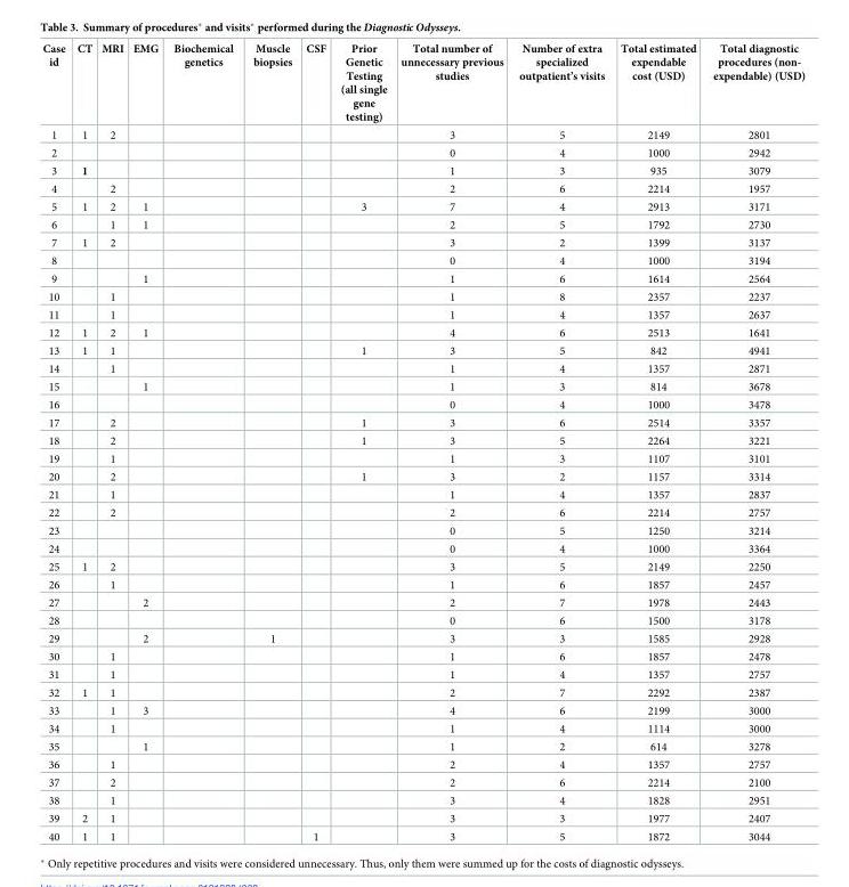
<table><thead><tr><td>Case id</td><td>CT</td><td>MRI</td><td>EMG</td><td>Biochemical genetics</td><td>Muscle biopsies</td><td>CSF</td><td>Prior Genetic Testing (all single gene testing)</td><td>Total number of unnecessary previous studies</td><td>Number of extra specialized outpatient’s visits</td><td>Total estimated expendable cost (USD)</td><td>Total diagnostic procedures (non- expendable) (USD)</td></tr></thead><tbody><tr><td>1</td><td>1</td><td>2</td><td></td><td></td><td></td><td></td><td></td><td>3</td><td>5</td><td>2149</td><td>2801</td></tr><tr><td>2</td><td></td><td></td><td></td><td></td><td></td><td></td><td></td><td>0</td><td>4</td><td>1000</td><td>2942</td></tr><tr><td>3</td><td>1</td><td></td><td></td><td></td><td></td><td></td><td></td><td>1</td><td>3</td><td>935</td><td>3079</td></tr><tr><td>4</td><td></td><td>2</td><td></td><td></td><td></td><td></td><td></td><td>2</td><td>6</td><td>2214</td><td>1957</td></tr><tr><td>5</td><td>1</td><td>2</td><td>1</td><td></td><td></td><td></td><td>3</td><td>7</td><td>4</td><td>2913</td><td>3171</td></tr><tr><td>6</td><td></td><td>1</td><td>1</td><td></td><td></td><td></td><td></td><td>2</td><td>5</td><td>1792</td><td>2730</td></tr><tr><td>7</td><td>1</td><td>2</td><td></td><td></td><td></td><td></td><td></td><td>3</td><td>2</td><td>1399</td><td>3137</td></tr><tr><td>8</td><td></td><td></td><td></td><td></td><td></td><td></td><td></td><td>0</td><td>4</td><td>1000</td><td>3194</td></tr><tr><td>9</td><td></td><td></td><td>1</td><td></td><td></td><td></td><td></td><td>1</td><td>6</td><td>1614</td><td>2564</td></tr><tr><td>10</td><td></td><td>1</td><td></td><td></td><td></td><td></td><td></td><td>1</td><td>8</td><td>2357</td><td>2237</td></tr><tr><td>11</td><td></td><td>1</td><td></td><td></td><td></td><td></td><td></td><td>1</td><td>4</td><td>1357</td><td>2637</td></tr><tr><td>12</td><td>1</td><td>2</td><td>1</td><td></td><td></td><td></td><td></td><td>4</td><td>6</td><td>2513</td><td>1641</td></tr><tr><td>13</td><td>1</td><td>1</td><td></td><td></td><td></td><td></td><td>1</td><td>3</td><td>5</td><td>842</td><td>4941</td></tr><tr><td>14</td><td></td><td>1</td><td></td><td></td><td></td><td></td><td></td><td>1</td><td>4</td><td>1357</td><td>2871</td></tr><tr><td>15</td><td></td><td></td><td>1</td><td></td><td></td><td></td><td></td><td>1</td><td>3</td><td>814</td><td>3678</td></tr><tr><td>16</td><td></td><td></td><td></td><td></td><td></td><td></td><td></td><td>0</td><td>4</td><td>1000</td><td>3478</td></tr><tr><td>17</td><td></td><td>2</td><td></td><td></td><td></td><td></td><td>1</td><td>3</td><td>6</td><td>2514</td><td>3357</td></tr><tr><td>18</td><td></td><td>2</td><td></td><td></td><td></td><td></td><td>1</td><td>3</td><td>5</td><td>2264</td><td>3221</td></tr><tr><td>19</td><td></td><td>1</td><td></td><td></td><td></td><td></td><td></td><td>1</td><td>3</td><td>1107</td><td>3101</td></tr><tr><td>20</td><td></td><td>2</td><td></td><td></td><td></td><td></td><td>1</td><td>3</td><td>2</td><td>1157</td><td>3314</td></tr><tr><td>21</td><td></td><td>1</td><td></td><td></td><td></td><td></td><td></td><td>1</td><td>4</td><td>1357</td><td>2837</td></tr><tr><td>22</td><td></td><td>2</td><td></td><td></td><td></td><td></td><td></td><td>2</td><td>6</td><td>2214</td><td>2757</td></tr><tr><td>23</td><td></td><td></td><td></td><td></td><td></td><td></td><td></td><td>0</td><td>5</td><td>1250</td><td>3214</td></tr><tr><td>24</td><td></td><td></td><td></td><td></td><td></td><td></td><td></td><td>0</td><td>4</td><td>1000</td><td>3364</td></tr><tr><td>25</td><td>1</td><td>2</td><td></td><td></td><td></td><td></td><td></td><td>3</td><td>5</td><td>2149</td><td>2250</td></tr><tr><td>26</td><td></td><td>1</td><td></td><td></td><td></td><td></td><td></td><td>1</td><td>6</td><td>1857</td><td>2457</td></tr><tr><td>27</td><td></td><td></td><td>2</td><td></td><td></td><td></td><td></td><td>2</td><td>7</td><td>1978</td><td>2443</td></tr><tr><td>28</td><td></td><td></td><td></td><td></td><td></td><td></td><td></td><td>0</td><td>6</td><td>1500</td><td>3178</td></tr><tr><td>29</td><td></td><td></td><td>2</td><td></td><td>1</td><td></td><td></td><td>3</td><td>3</td><td>1585</td><td>2928</td></tr><tr><td>30</td><td></td><td>1</td><td></td><td></td><td></td><td></td><td></td><td>1</td><td>6</td><td>1857</td><td>2478</td></tr><tr><td>31</td><td></td><td>1</td><td></td><td></td><td></td><td></td><td></td><td>1</td><td>4</td><td>1357</td><td>2757</td></tr><tr><td>32</td><td>1</td><td>1</td><td></td><td></td><td></td><td></td><td></td><td>2</td><td>7</td><td>2292</td><td>2387</td></tr><tr><td>33</td><td></td><td>1</td><td>3</td><td></td><td></td><td></td><td></td><td>4</td><td>6</td><td>2199</td><td>3000</td></tr><tr><td>34</td><td></td><td>1</td><td></td><td></td><td></td><td></td><td></td><td>1</td><td>4</td><td>1114</td><td>3000</td></tr><tr><td>35</td><td></td><td></td><td>1</td><td></td><td></td><td></td><td></td><td>1</td><td>2</td><td>614</td><td>3278</td></tr><tr><td>36</td><td></td><td>1</td><td></td><td></td><td></td><td></td><td></td><td>2</td><td>4</td><td>1357</td><td>2757</td></tr><tr><td>37</td><td></td><td>2</td><td></td><td></td><td></td><td></td><td></td><td>2</td><td>6</td><td>2214</td><td>2100</td></tr><tr><td>38</td><td></td><td>1</td><td></td><td></td><td></td><td></td><td></td><td>3</td><td>4</td><td>1828</td><td>2951</td></tr><tr><td>39</td><td>2</td><td>1</td><td></td><td></td><td></td><td></td><td></td><td>3</td><td>3</td><td>1977</td><td>2407</td></tr><tr><td>40</td><td>1</td><td>1</td><td></td><td></td><td></td><td>1</td><td></td><td>3</td><td>5</td><td>1872</td><td>3044</td></tr></tbody></table>